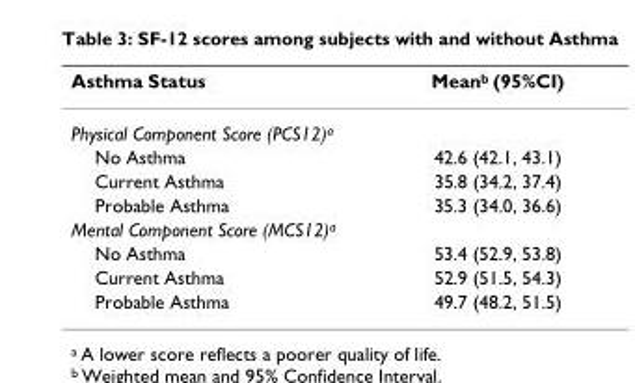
<table><thead><tr><td>Asthma Status</td><td>Mean<sup>b</sup> (95%CI)</td></tr></thead><tbody><tr><td colspan="2">Physical Component Score (PCS12)<sup>a</sup></td></tr><tr><td>No Asthma</td><td>42.6 (42.1, 43.1)</td></tr><tr><td>Current Asthma</td><td>35.8 (34.2, 37.4)</td></tr><tr><td>Probable Asthma</td><td>35.3 (34.0, 36.6)</td></tr><tr><td colspan="2">Mental Component Score (MCS12)<sup>a</sup></td></tr><tr><td>No Asthma</td><td>53.4 (52.9, 53.8)</td></tr><tr><td>Current Asthma</td><td>52.9 (51.5, 54.3)</td></tr><tr><td>Probable Asthma</td><td>49.7 (48.2, 51.5)</td></tr></tbody></table>